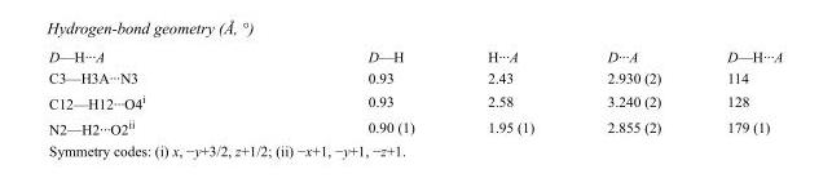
<table><tbody><tr><td>D—H···A</td><td>D—H</td><td>H···A</td><td>D···A</td><td>D—H···A</td></tr><tr><td>C3—H3A···N3</td><td>0.93</td><td>2.43</td><td>2.930 (2)</td><td>114</td></tr><tr><td>C12—H12···O4<sup>i</sup></td><td>0.93</td><td>2.58</td><td>3.240 (2)</td><td>128</td></tr><tr><td>N2—H2···O2<sup>ii</sup></td><td>0.90 (1)</td><td>1.95 (1)</td><td>2.855 (2)</td><td>179 (1)</td></tr></tbody></table>